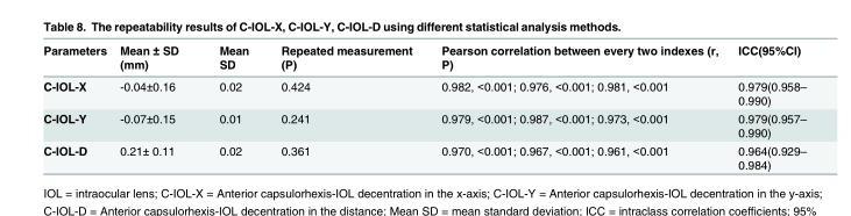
<table><thead><tr><td>Parameters</td><td>Mean ± SD (mm)</td><td>Mean SD</td><td>Repeated measurement (P)</td><td>Pearson correlation between every two indexes (r, P)</td><td>ICC(95%CI)</td></tr></thead><tbody><tr><td>C-IOL-X</td><td>-0.04±0.16</td><td>0.02</td><td>0.424</td><td>0.982, &lt;0.001; 0.976, &lt;0.001; 0.981, &lt;0.001</td><td>0.979(0.958– 0.990)</td></tr><tr><td>C-IOL-Y</td><td>-0.07±0.15</td><td>0.01</td><td>0.241</td><td>0.979, &lt;0.001; 0.987, &lt;0.001; 0.973, &lt;0.001</td><td>0.979(0.957– 0.990)</td></tr><tr><td>C-IOL-D</td><td>0.21± 0.11</td><td>0.02</td><td>0.361</td><td>0.970, &lt;0.001; 0.967, &lt;0.001; 0.961, &lt;0.001</td><td>0.964(0.929– 0.984)</td></tr></tbody></table>